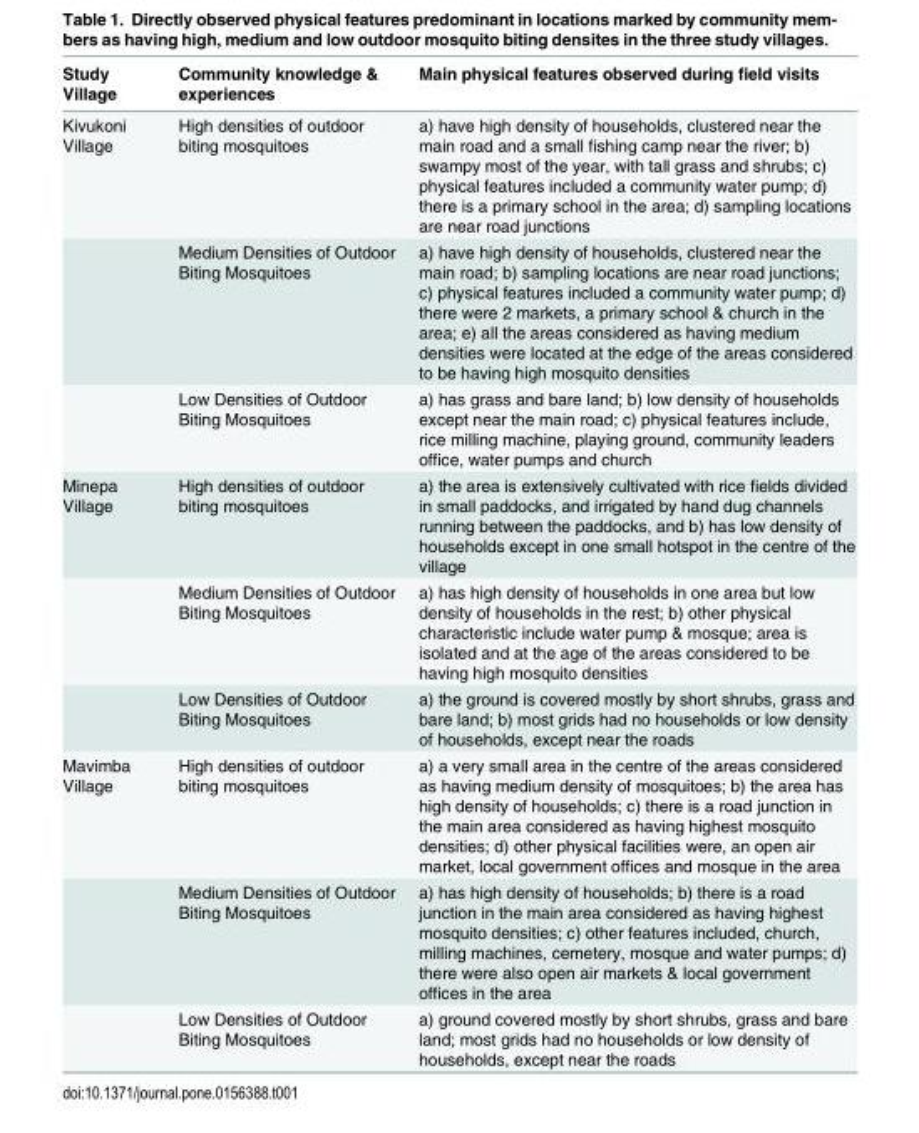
<table><thead><tr><td>Study Village</td><td>Community knowledge &amp; experiences</td><td>Main physical features observed during field visits</td></tr></thead><tbody><tr><td rowspan="3">Kivukoni Village</td><td>High densities of outdoor biting mosquitoes</td><td>a) have high density of households, clustered near the main road and a small fishing camp near the river; b) swampy most of the year, with tall grass and shrubs; c) physical features included a community water pump; d) there is a primary school in the area; d) sampling locations are near road junctions</td></tr><tr><td>Medium Densities of Outdoor Biting Mosquitoes</td><td>a) have high density of households, clustered near the main road; b) sampling locations are near road junctions; c) physical features included a community water pump; d) there were 2 markets, a primary school &amp; church in the area; e) all the areas considered as having medium densities were located at the edge of the areas considered to be having high mosquito densities</td></tr><tr><td>Low Densities of Outdoor Biting Mosquitoes</td><td>a) has grass and bare land; b) low density of households except near the main road; c) physical features include, rice milling machine, playing ground, community leaders office, water pumps and church</td></tr><tr><td rowspan="3">Minepa Village</td><td>High densities of outdoor biting mosquitoes</td><td>a) the area is extensively cultivated with rice fields divided in small paddocks, and irrigated by hand dug channels running between the paddocks, and b) has low density of households except in one small hotspot in the centre of the village</td></tr><tr><td>Medium Densities of Outdoor Biting Mosquitoes</td><td>a) has high density of households in one area but low density of households in the rest; b) other physical characteristic include water pump &amp; mosque; area is isolated and at the age of the areas considered to be having high mosquito densities</td></tr><tr><td>Low Densities of Outdoor Biting Mosquitoes</td><td>a) the ground is covered mostly by short shrubs, grass and bare land; b) most grids had no households or low density of households, except near the roads</td></tr><tr><td rowspan="3">Mavimba Village</td><td>High densities of outdoor biting mosquitoes</td><td>a) a very small area in the centre of the areas considered as having medium density of mosquitoes; b) the area has high density of households; c) there is a road junction in the main area considered as having highest mosquito densities; d) other physical facilities were, an open air market, local government offices and mosque in the area</td></tr><tr><td>Medium Densities of Outdoor Biting Mosquitoes</td><td>a) has high density of households; b) there is a road junction in the main area considered as having highest mosquito densities; c) other features included, church, milling machines, cemetery, mosque and water pumps; d) there were also open air markets &amp; local government offices in the area</td></tr><tr><td>Low Densities of Outdoor Biting Mosquitoes</td><td>a) ground covered mostly by short shrubs, grass and bare land; most grids had no households or low density of households, except near the roads</td></tr></tbody></table>